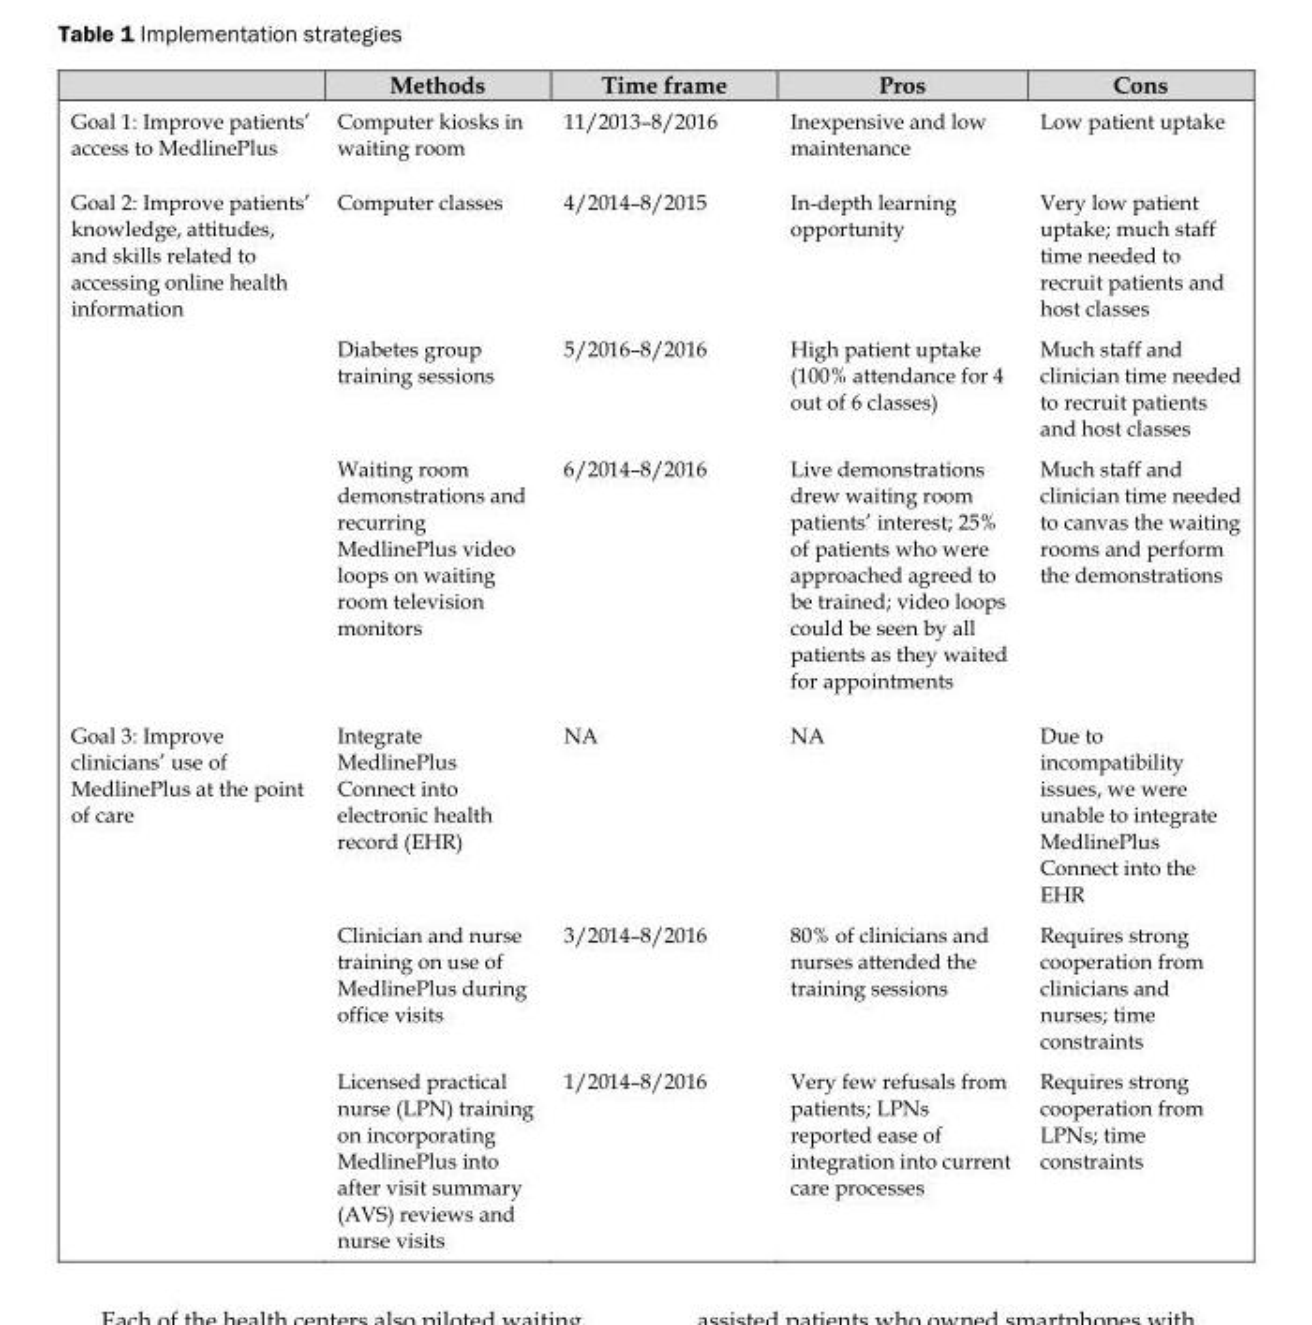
<table><thead><tr><td></td><td>Methods</td><td>Time frame</td><td>Pros</td><td>Cons</td></tr></thead><tbody><tr><td>Goal 1: Improve patients’ access to MedlinePlus</td><td>Computer kiosks in waiting room</td><td>11/2013–8/2016</td><td>Inexpensive and low maintenance</td><td>Low patient uptake</td></tr><tr><td rowspan="3">Goal 2: Improve patients’ knowledge, attitudes, and skills related to accessing online health information</td><td>Computer classes</td><td>4/2014–8/2015</td><td>In-depth learning opportunity</td><td>Very low patient uptake; much staff time needed to recruit patients and host classes</td></tr><tr><td>Diabetes group training sessions</td><td>5/2016–8/2016</td><td>High patient uptake (100% attendance for 4 out of 6 classes)</td><td>Much staff and clinician time needed to recruit patients and host classes</td></tr><tr><td>Waiting room demonstrations and recurring MedlinePlus video loops on waiting room television monitors</td><td>6/2014–8/2016</td><td>Live demonstrations drew waiting room patients’ interest; 25% of patients who were approached agreed to be trained; video loops could be seen by all patients as they waited for appointments</td><td>Much staff and clinician time needed to canvas the waiting rooms and perform the demonstrations</td></tr><tr><td rowspan="3">Goal 3: Improve clinicians’ use of MedlinePlus at the point of care</td><td>Integrate MedlinePlus Connect into electronic health record (EHR)</td><td>NA</td><td>NA</td><td>Due to incompatibility issues, we were unable to integrate MedlinePlus Connect into the EHR</td></tr><tr><td>Clinician and nurse training on use of MedlinePlus during office visits</td><td>3/2014–8/2016</td><td>80% of clinicians and nurses attended the training sessions</td><td>Requires strong cooperation from clinicians and nurses; time constraints</td></tr><tr><td>Licensed practical nurse (LPN) training on incorporating MedlinePlus into after visit summary (AVS) reviews and nurse visits</td><td>1/2014–8/2016</td><td>Very few refusals from patients; LPNs reported ease of integration into current care processes</td><td>Requires strong cooperation from LPNs; time constraints</td></tr></tbody></table>